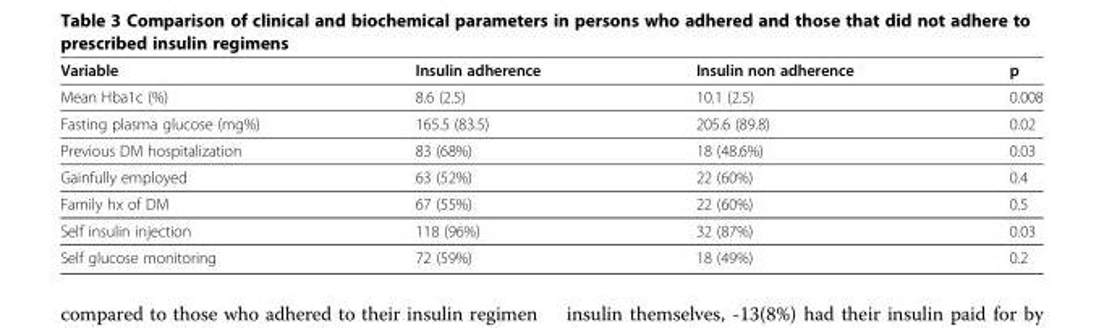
<table><thead><tr><td>Variable</td><td>Insulin adherence</td><td>Insulin non adherence</td><td>p</td></tr></thead><tbody><tr><td>Mean Hba1c (%)</td><td>8.6 (2.5)</td><td>10.1 (2.5)</td><td>0.008</td></tr><tr><td>Fasting plasma glucose (mg%)</td><td>165.5 (83.5)</td><td>205.6 (89.8)</td><td>0.02</td></tr><tr><td>Previous DM hospitalization</td><td>83 (68%)</td><td>18 (48.6%)</td><td>0.03</td></tr><tr><td>Gainfully employed</td><td>63 (52%)</td><td>22 (60%)</td><td>0.4</td></tr><tr><td>Family hx of DM</td><td>67 (55%)</td><td>22 (60%)</td><td>0.5</td></tr><tr><td>Self insulin injection</td><td>118 (96%)</td><td>32 (87%)</td><td>0.03</td></tr><tr><td>Self glucose monitoring</td><td>72 (59%)</td><td>18 (49%)</td><td>0.2</td></tr></tbody></table>